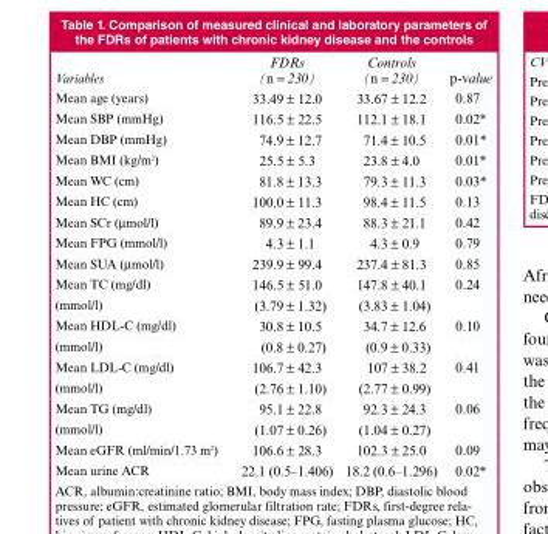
<table><thead><tr><td>Variables</td><td>FDRs (n = 230)</td><td>Controls (n = 230)</td><td>p-value</td></tr></thead><tbody><tr><td>Mean age (years)</td><td>33.49 ± 12.0</td><td>33.67 ± 12.2</td><td>0.87</td></tr><tr><td>Mean SBP (mmHg)</td><td>116.5 ± 22.5</td><td>112.1 ± 18.1</td><td>0.02*</td></tr><tr><td>Mean DBP (mmHg)</td><td>74.9 ± 12.7</td><td>71.4 ± 10.5</td><td>0.01*</td></tr><tr><td>Mean BMI (kg/m2)</td><td>25.5 ± 5.3</td><td>23.8 ± 4.0</td><td>0.01*</td></tr><tr><td>Mean WC (cm)</td><td>81.8 ± 13.3</td><td>79.3 ± 11.3</td><td>0.03*</td></tr><tr><td>Mean HC (cm)</td><td>100.0 ± 11.3</td><td>98.4 ± 11.5</td><td>0.13</td></tr><tr><td>Mean SCr (µmol/l)</td><td>89.9 ± 23.4</td><td>88.3 ± 21.1</td><td>0.42</td></tr><tr><td>Mean FPG (mmol/l)</td><td>4.3 ± 1.1</td><td>4.3 ± 0.9</td><td>0.79</td></tr><tr><td>Mean SUA (µmol/l)</td><td>239.9 ± 99.4</td><td>237.4 ± 81.3</td><td>0.85</td></tr><tr><td>Mean TC (mg/dl)</td><td>146.5 ± 51.0</td><td>147.8 ± 40.1</td><td>0.24</td></tr><tr><td>(mmol/l)</td><td>(3.79 ± 1.32)</td><td>(3.83 ± 1.04)</td><td></td></tr><tr><td>Mean HDL-C (mg/dl)</td><td>30.8 ± 10.5</td><td>34.7 ± 12.6</td><td>0.10</td></tr><tr><td>(mmol/l)</td><td>(0.8 ± 0.27)</td><td>(0.9 ± 0.33)</td><td></td></tr><tr><td>Mean LDL-C (mg/dl)</td><td>106.7 ± 42.3</td><td>107 ± 38.2</td><td>0.41</td></tr><tr><td>(mmol/l)</td><td>(2.76 ± 1.10)</td><td>(2.77 ± 0.99)</td><td></td></tr><tr><td>Mean TG (mg/dl)</td><td>95.1 ± 22.8</td><td>92.3 ± 24.3</td><td>0.06</td></tr><tr><td>(mmol/l)</td><td>(1.07 ± 0.26)</td><td>(1.04 ± 0.27)</td><td></td></tr><tr><td>Mean eGFR (ml/min/1.73 m2)</td><td>106.6 ± 28.3</td><td>102.3 ± 25.0</td><td>0.09</td></tr><tr><td>Mean urine ACR</td><td>22.1 (0.5–1.406)</td><td>18.2 (0.6–1.296)</td><td>0.02*</td></tr></tbody></table>